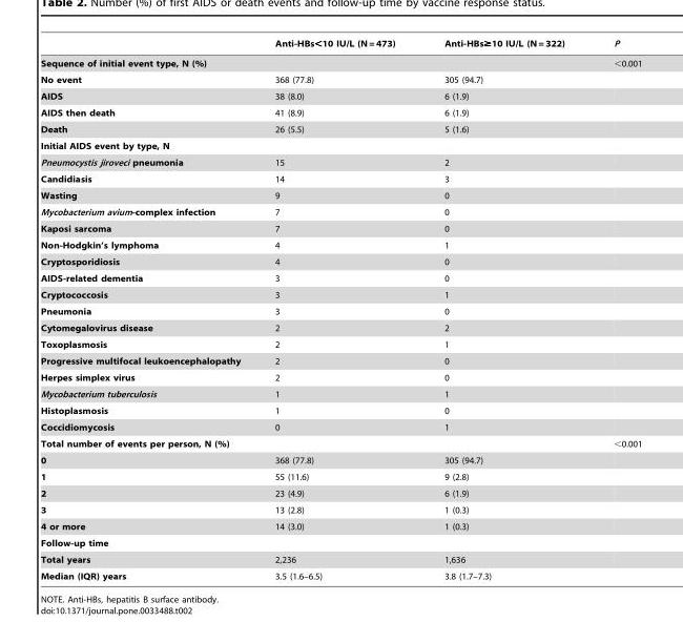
<table><thead><tr><td></td><td>Anti-HBs&lt;10 IU/L (N = 473)</td><td>Anti-HBs≥10 IU/L (N = 322)</td><td>P</td></tr></thead><tbody><tr><td>Sequence of initial event type, N (%)</td><td></td><td></td><td>&lt;0.001</td></tr><tr><td>No event</td><td>368 (77.8)</td><td>305 (94.7)</td><td></td></tr><tr><td>AIDS</td><td>38 (8.0)</td><td>6 (1.9)</td><td></td></tr><tr><td>AIDS then death</td><td>41 (8.9)</td><td>6 (1.9)</td><td></td></tr><tr><td>Death</td><td>26 (5.5)</td><td>5 (1.6)</td><td></td></tr><tr><td colspan="4">Initial AIDS event by type, N</td></tr><tr><td>Pneumocystis jiroveci pneumonia</td><td>15</td><td>2</td><td></td></tr><tr><td>Candidiasis</td><td>14</td><td>3</td><td></td></tr><tr><td>Wasting</td><td>9</td><td>0</td><td></td></tr><tr><td>Mycobacterium avium-complex infection</td><td>7</td><td>0</td><td></td></tr><tr><td>Kaposi sarcoma</td><td>7</td><td>0</td><td></td></tr><tr><td>Non-Hodgkin’s lymphoma</td><td>4</td><td>1</td><td></td></tr><tr><td>Cryptosporidiosis</td><td>4</td><td>0</td><td></td></tr><tr><td>AIDS-related dementia</td><td>3</td><td>0</td><td></td></tr><tr><td>Cryptococcosis</td><td>3</td><td>1</td><td></td></tr><tr><td>Pneumonia</td><td>3</td><td>0</td><td></td></tr><tr><td>Cytomegalovirus disease</td><td>2</td><td>2</td><td></td></tr><tr><td>Toxoplasmosis</td><td>2</td><td>1</td><td></td></tr><tr><td>Progressive multifocal leukoencephalopathy</td><td>2</td><td>0</td><td></td></tr><tr><td>Herpes simplex virus</td><td>2</td><td>0</td><td></td></tr><tr><td>Mycobacterium tuberculosis</td><td>1</td><td>1</td><td></td></tr><tr><td>Histoplasmosis</td><td>1</td><td>0</td><td></td></tr><tr><td>Coccidiomycosis</td><td>0</td><td>1</td><td></td></tr><tr><td>Total number of events per person, N (%)</td><td></td><td></td><td>&lt;0.001</td></tr><tr><td>0</td><td>368 (77.8)</td><td>305 (94.7)</td><td></td></tr><tr><td>1</td><td>55 (11.6)</td><td>9 (2.8)</td><td></td></tr><tr><td>2</td><td>23 (4.9)</td><td>6 (1.9)</td><td></td></tr><tr><td>3</td><td>13 (2.8)</td><td>1 (0.3)</td><td></td></tr><tr><td>4 or more</td><td>14 (3.0)</td><td>1 (0.3)</td><td></td></tr><tr><td colspan="4">Follow-up time</td></tr><tr><td>Total years</td><td>2,236</td><td>1,636</td><td></td></tr><tr><td>Median (IQR) years</td><td>3.5 (1.6–6.5)</td><td>3.8 (1.7–7.3)</td><td></td></tr></tbody></table>